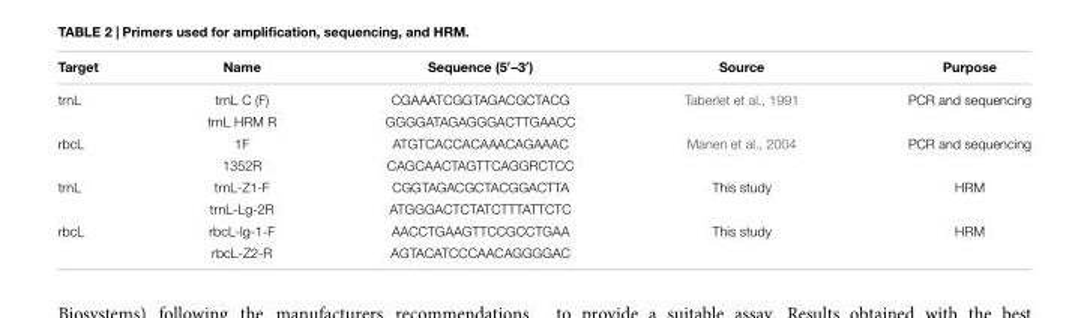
<table><thead><tr><td>Target</td><td>Name</td><td>Sequence (5′–3′)</td><td>Source</td><td>Purpose</td></tr></thead><tbody><tr><td rowspan="2">trnL</td><td>trnL C (F)</td><td>CGAAATCGGTAGACGCTACG</td><td>Taberlet et al., 1991</td><td>PCR and sequencing</td></tr><tr><td>trnL HRM R</td><td>GGGGATAGAGGGACTTGAACC</td><td></td><td></td></tr><tr><td rowspan="2">rbcL</td><td>1F</td><td>ATGTCACCACAAACAGAAAC</td><td>Manen et al., 2004</td><td>PCR and sequencing</td></tr><tr><td>1352R</td><td>CAGCAACTAGTTCAGGRCTCC</td><td></td><td></td></tr><tr><td rowspan="2">trnL</td><td>trnL-Z1-F</td><td>CGGTAGACGCTACGGACTTA</td><td>This study</td><td>HRM</td></tr><tr><td>trnL-Lg-2R</td><td>ATGGGACTCTATCTTTATTCTC</td><td></td><td></td></tr><tr><td rowspan="2">rbcL</td><td>rbcL-lg-1-F</td><td>AACCTGAAGTTCCGCCTGAA</td><td>This study</td><td>HRM</td></tr><tr><td>rbcL-Z2-R</td><td>AGTACATCCCAACAGGGGAC</td><td></td><td></td></tr></tbody></table>